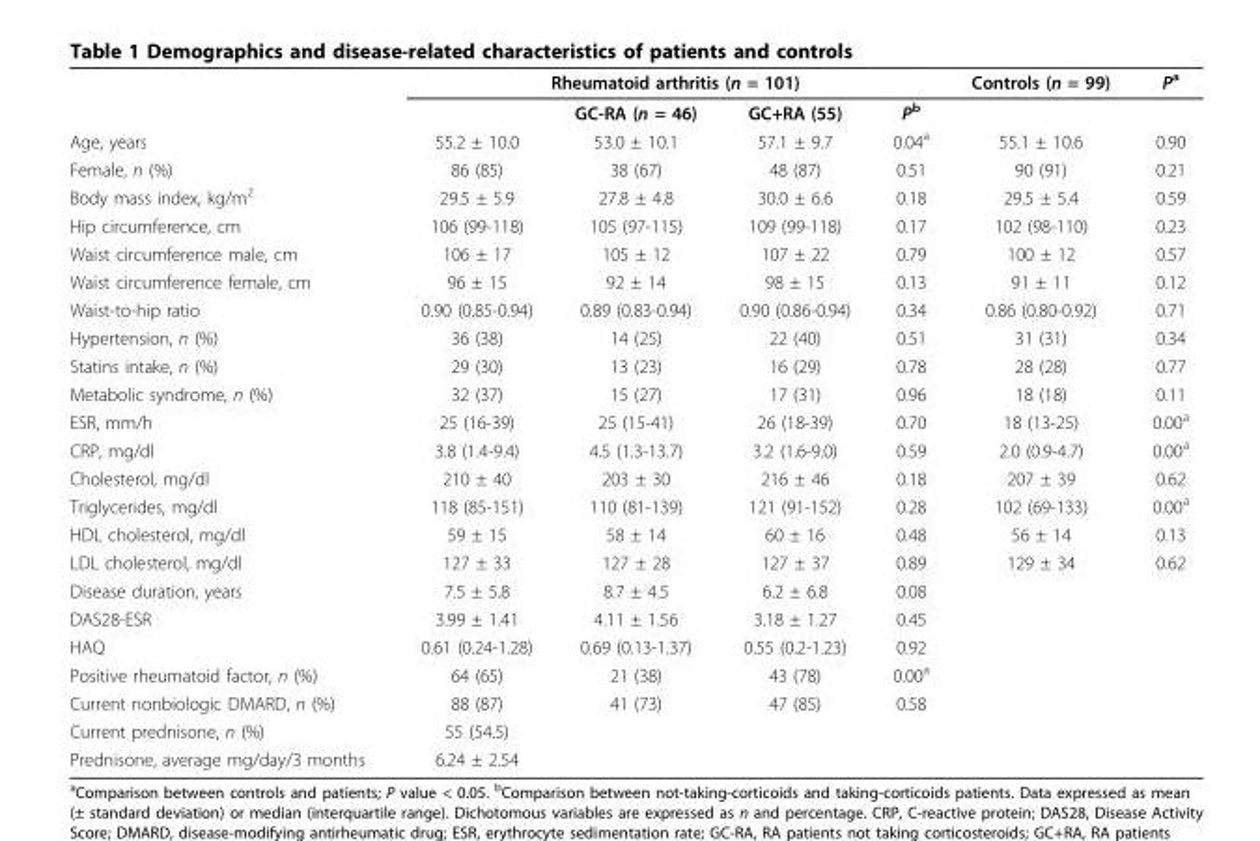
<table><thead><tr><td rowspan="2"></td><td colspan="4">Rheumatoid arthritis (n = 101)</td><td rowspan="2">Controls (n = 99)</td><td rowspan="2">P<sup>a</sup></td></tr><tr><td></td><td>GC-RA (n = 46)</td><td>GC+RA (55)</td><td>P<sup>b</sup></td></tr></thead><tbody><tr><td>Age, years</td><td>55.2 ± 10.0</td><td>53.0 ± 10.1</td><td>57.1 ± 9.7</td><td>0.04<sup>a</sup></td><td>55.1 ± 10.6</td><td>0.90</td></tr><tr><td>Female, n (%)</td><td>86 (85)</td><td>38 (67)</td><td>48 (87)</td><td>0.51</td><td>90 (91)</td><td>0.21</td></tr><tr><td>Body mass index, kg/m<sup>2</sup></td><td>29.5 ± 5.9</td><td>27.8 ± 4.8</td><td>30.0 ± 6.6</td><td>0.18</td><td>29.5 ± 5.4</td><td>0.59</td></tr><tr><td>Hip circumference, cm</td><td>106 (99-118)</td><td>105 (97-115)</td><td>109 (99-118)</td><td>0.17</td><td>102 (98-110)</td><td>0.23</td></tr><tr><td>Waist circumference male, cm</td><td>106 ± 17</td><td>105 ± 12</td><td>107 ± 22</td><td>0.79</td><td>100 ± 12</td><td>0.57</td></tr><tr><td>Waist circumference female, cm</td><td>96 ± 15</td><td>92 ± 14</td><td>98 ± 15</td><td>0.13</td><td>91 ± 11</td><td>0.12</td></tr><tr><td>Waist-to-hip ratio</td><td>0.90 (0.85-0.94)</td><td>0.89 (0.83-0.94)</td><td>0.90 (0.86-0.94)</td><td>0.34</td><td>0.86 (0.80-0.92)</td><td>0.71</td></tr><tr><td>Hypertension, n (%)</td><td>36 (38)</td><td>14 (25)</td><td>22 (40)</td><td>0.51</td><td>31 (31)</td><td>0.34</td></tr><tr><td>Statins intake, n (%)</td><td>29 (30)</td><td>13 (23)</td><td>16 (29)</td><td>0.78</td><td>28 (28)</td><td>0.77</td></tr><tr><td>Metabolic syndrome, n (%)</td><td>32 (37)</td><td>15 (27)</td><td>17 (31)</td><td>0.96</td><td>18 (18)</td><td>0.11</td></tr><tr><td>ESR, mm/h</td><td>25 (16-39)</td><td>25 (15-41)</td><td>26 (18-39)</td><td>0.70</td><td>18 (13-25)</td><td>0.00<sup>a</sup></td></tr><tr><td>CRP, mg/dl</td><td>3.8 (1.4-9.4)</td><td>4.5 (1.3-13.7)</td><td>3.2 (1.6-9.0)</td><td>0.59</td><td>2.0 (0.9-4.7)</td><td>0.00<sup>a</sup></td></tr><tr><td>Cholesterol, mg/dl</td><td>210 ± 40</td><td>203 ± 30</td><td>216 ± 46</td><td>0.18</td><td>207 ± 39</td><td>0.62</td></tr><tr><td>Triglycerides, mg/dl</td><td>118 (85-151)</td><td>110 (81-139)</td><td>121 (91-152)</td><td>0.28</td><td>102 (69-133)</td><td>0.00<sup>a</sup></td></tr><tr><td>HDL cholesterol, mg/dl</td><td>59 ± 15</td><td>58 ± 14</td><td>60 ± 16</td><td>0.48</td><td>56 ± 14</td><td>0.13</td></tr><tr><td>LDL cholesterol, mg/dl</td><td>127 ± 33</td><td>127 ± 28</td><td>127 ± 37</td><td>0.89</td><td>129 ± 34</td><td>0.62</td></tr><tr><td>Disease duration, years</td><td>7.5 ± 5.8</td><td>8.7 ± 4.5</td><td>6.2 ± 6.8</td><td>0.08</td><td></td><td></td></tr><tr><td>DAS28-ESR</td><td>3.99 ± 1.41</td><td>4.11 ± 1.56</td><td>3.18 ± 1.27</td><td>0.45</td><td></td><td></td></tr><tr><td>HAQ</td><td>0.61 (0.24-1.28)</td><td>0.69 (0.13-1.37)</td><td>0.55 (0.2-1.23)</td><td>0.92</td><td></td><td></td></tr><tr><td>Positive rheumatoid factor, n (%)</td><td>64 (65)</td><td>21 (38)</td><td>43 (78)</td><td>0.00<sup>a</sup></td><td></td><td></td></tr><tr><td>Current nonbiologic DMARD, n (%)</td><td>88 (87)</td><td>41 (73)</td><td>47 (85)</td><td>0.58</td><td></td><td></td></tr><tr><td>Current prednisone, n (%)</td><td>55 (54.5)</td><td></td><td></td><td></td><td></td><td></td></tr><tr><td>Prednisone, average mg/day/3 months</td><td>6.24 ± 2.54</td><td></td><td></td><td></td><td></td><td></td></tr></tbody></table>